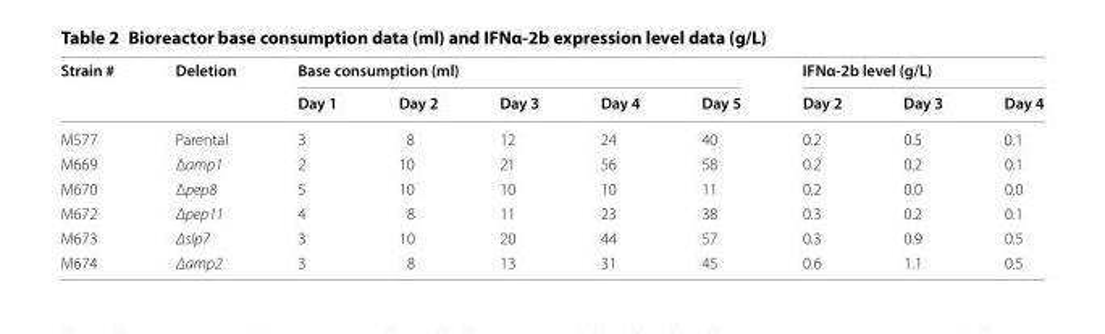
<table><thead><tr><td rowspan="2">Strain #</td><td rowspan="2">Deletion</td><td colspan="5">Base consumption (ml)</td><td colspan="3">IFNα‑2b level (g/L)</td></tr><tr><td>Day 1</td><td>Day 2</td><td>Day 3</td><td>Day 4</td><td>Day 5</td><td>Day 2</td><td>Day 3</td><td>Day 4</td></tr></thead><tbody><tr><td>M577</td><td>Parental</td><td>3</td><td>8</td><td>12</td><td>24</td><td>40</td><td>0.2</td><td>0.5</td><td>0.1</td></tr><tr><td>M669</td><td>Δamp1</td><td>2</td><td>10</td><td>21</td><td>56</td><td>58</td><td>0.2</td><td>0.2</td><td>0.1</td></tr><tr><td>M670</td><td>Δpep8</td><td>5</td><td>10</td><td>10</td><td>10</td><td>11</td><td>0.2</td><td>0.0</td><td>0.0</td></tr><tr><td>M672</td><td>Δpep11</td><td>4</td><td>8</td><td>11</td><td>23</td><td>38</td><td>0.3</td><td>0.2</td><td>0.1</td></tr><tr><td>M673</td><td>Δslp7</td><td>3</td><td>10</td><td>20</td><td>44</td><td>57</td><td>0.3</td><td>0.9</td><td>0.5</td></tr><tr><td>M674</td><td>Δamp2</td><td>3</td><td>8</td><td>13</td><td>31</td><td>45</td><td>0.6</td><td>1.1</td><td>0.5</td></tr></tbody></table>